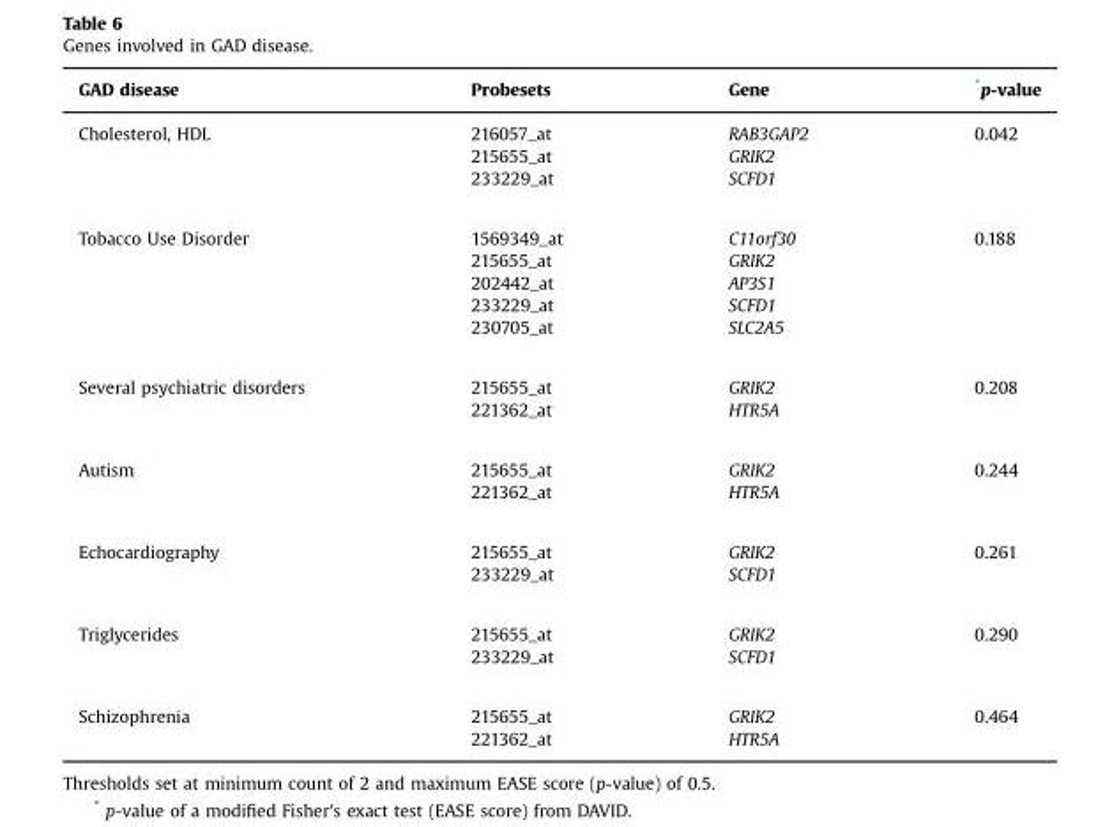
<table><thead><tr><td>GAD disease</td><td>Probesets</td><td>Gene</td><td>*p-value</td></tr></thead><tbody><tr><td rowspan="3">Cholesterol, HDL</td><td>216057_at</td><td>RAB3GAP2</td><td rowspan="3">0.042</td></tr><tr><td>215655_at</td><td>GRIK2</td></tr><tr><td>233229_at</td><td>SCFD1</td></tr><tr><td rowspan="5">Tobacco Use Disorder</td><td>1569349_at</td><td>C11orf30</td><td rowspan="5">0.188</td></tr><tr><td>215655_at</td><td>GRIK2</td></tr><tr><td>202442_at</td><td>AP3S1</td></tr><tr><td>233229_at</td><td>SCFD1</td></tr><tr><td>230705_at</td><td>SLC2A5</td></tr><tr><td rowspan="2">Several psychiatric disorders</td><td>215655_at</td><td>GRIK2</td><td rowspan="2">0.208</td></tr><tr><td>221362_at</td><td>HTR5A</td></tr><tr><td rowspan="2">Autism</td><td>215655_at</td><td>GRIK2</td><td rowspan="2">0.244</td></tr><tr><td>221362_at</td><td>HTR5A</td></tr><tr><td rowspan="2">Echocardiography</td><td>215655_at</td><td>GRIK2</td><td rowspan="2">0.261</td></tr><tr><td>233229_at</td><td>SCFD1</td></tr><tr><td rowspan="2">Triglycerides</td><td>215655_at</td><td>GRIK2</td><td rowspan="2">0.290</td></tr><tr><td>233229_at</td><td>SCFD1</td></tr><tr><td rowspan="2">Schizophrenia</td><td>215655_at</td><td>GRIK2</td><td rowspan="2">0.464</td></tr><tr><td>221362_at</td><td>HTR5A</td></tr></tbody></table>